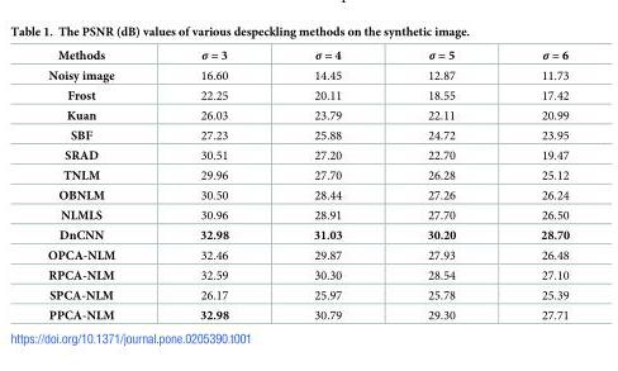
<table><thead><tr><td>Methods</td><td>σ = 3</td><td>σ = 4</td><td>σ = 5</td><td>σ = 6</td></tr></thead><tbody><tr><td>Noisy image</td><td>16.60</td><td>14.45</td><td>12.87</td><td>11.73</td></tr><tr><td>Frost</td><td>22.25</td><td>20.11</td><td>18.55</td><td>17.42</td></tr><tr><td>Kuan</td><td>26.03</td><td>23.79</td><td>22.11</td><td>20.99</td></tr><tr><td>SBF</td><td>27.23</td><td>25.88</td><td>24.72</td><td>23.95</td></tr><tr><td>SRAD</td><td>30.51</td><td>27.20</td><td>22.70</td><td>19.47</td></tr><tr><td>TNLM</td><td>29.96</td><td>27.70</td><td>26.28</td><td>25.12</td></tr><tr><td>OBNLM</td><td>30.50</td><td>28.44</td><td>27.26</td><td>26.24</td></tr><tr><td>NLMLS</td><td>30.96</td><td>28.91</td><td>27.70</td><td>26.50</td></tr><tr><td>DnCNN</td><td>32.98</td><td>31.03</td><td>30.20</td><td>28.70</td></tr><tr><td>OPCA-NLM</td><td>32.46</td><td>29.87</td><td>27.93</td><td>26.48</td></tr><tr><td>RPCA-NLM</td><td>32.59</td><td>30.30</td><td>28.54</td><td>27.10</td></tr><tr><td>SPCA-NLM</td><td>26.17</td><td>25.97</td><td>25.78</td><td>25.39</td></tr><tr><td>PPCA-NLM</td><td>32.98</td><td>30.79</td><td>29.30</td><td>27.71</td></tr></tbody></table>